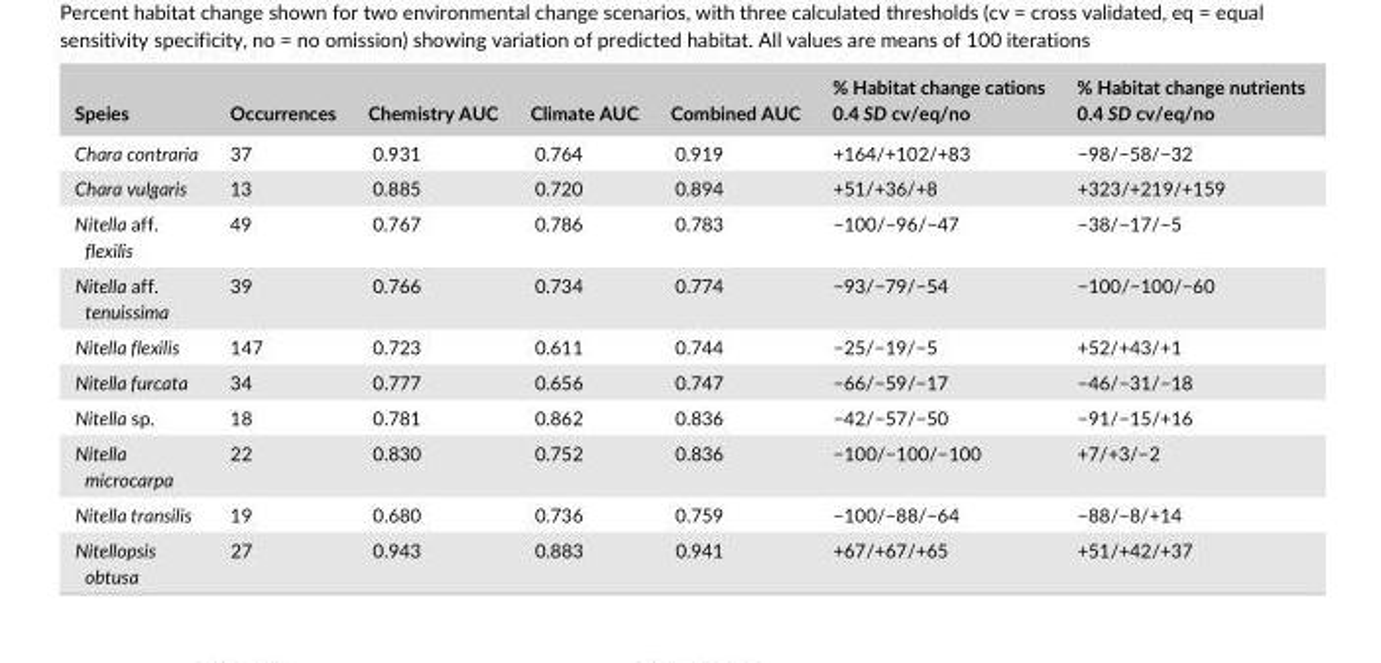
<table><thead><tr><td>Speies</td><td>Occurrences</td><td>Chemistry AUC</td><td>Climate AUC</td><td>Combined AUC</td><td>% Habitat change cations 0.4 SD cv/eq/no</td><td>% Habitat change nutrients 0.4 SD cv/eq/no</td></tr></thead><tbody><tr><td>Chara contraria</td><td>37</td><td>0.931</td><td>0.764</td><td>0.919</td><td>+164/+102/+83</td><td>−98/−58/−32</td></tr><tr><td>Chara vulgaris</td><td>13</td><td>0.885</td><td>0.720</td><td>0.894</td><td>+51/+36/+8</td><td>+323/+219/+159</td></tr><tr><td>Nitella aff. flexilis</td><td>49</td><td>0.767</td><td>0.786</td><td>0.783</td><td>−100/−96/−47</td><td>−38/−17/−5</td></tr><tr><td>Nitella aff. tenuissima</td><td>39</td><td>0.766</td><td>0.734</td><td>0.774</td><td>−93/−79/−54</td><td>−100/−100/−60</td></tr><tr><td>Nitella flexilis</td><td>147</td><td>0.723</td><td>0.611</td><td>0.744</td><td>−25/−19/−5</td><td>+52/+43/+1</td></tr><tr><td>Nitella furcata</td><td>34</td><td>0.777</td><td>0.656</td><td>0.747</td><td>−66/−59/−17</td><td>−46/−31/−18</td></tr><tr><td>Nitella sp.</td><td>18</td><td>0.781</td><td>0.862</td><td>0.836</td><td>−42/−57/−50</td><td>−91/−15/+16</td></tr><tr><td>Nitella microcarpa</td><td>22</td><td>0.830</td><td>0.752</td><td>0.836</td><td>−100/−100/−100</td><td>+7/+3/−2</td></tr><tr><td>Nitella transilis</td><td>19</td><td>0.680</td><td>0.736</td><td>0.759</td><td>−100/−88/−64</td><td>−88/−8/+14</td></tr><tr><td>Nitellopsis obtusa</td><td>27</td><td>0.943</td><td>0.883</td><td>0.941</td><td>+67/+67/+65</td><td>+51/+42/+37</td></tr></tbody></table>